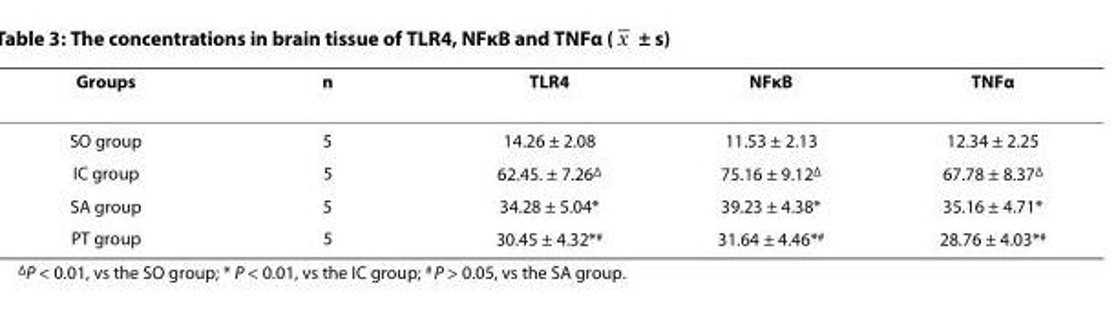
<table><thead><tr><td>Groups</td><td>n</td><td>TLR4</td><td>NFκB</td><td>TNFα</td></tr></thead><tbody><tr><td>SO group</td><td>5</td><td>14.26 ± 2.08</td><td>11.53 ± 2.13</td><td>12.34 ± 2.25</td></tr><tr><td>IC group</td><td>5</td><td>62.45. ± 7.26<sup>Δ</sup></td><td>75.16 ± 9.12<sup>Δ</sup></td><td>67.78 ± 8.37<sup>Δ</sup></td></tr><tr><td>SA group</td><td>5</td><td>34.28 ± 5.04*</td><td>39.23 ± 4.38*</td><td>35.16 ± 4.71*</td></tr><tr><td>PT group</td><td>5</td><td>30.45 ± 4.32*<sup>#</sup></td><td>31.64 ± 4.46*<sup>#</sup></td><td>28.76 ± 4.03*<sup>#</sup></td></tr></tbody></table>